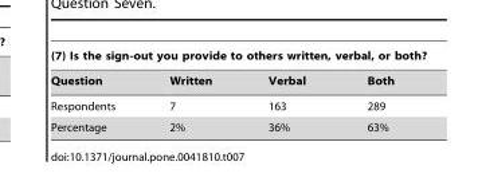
<table><thead><tr><td colspan="4">(7) Is the sign-out you provide to others written, verbal, or both?</td></tr><tr><td>Question</td><td>Written</td><td>Verbal</td><td>Both</td></tr></thead><tbody><tr><td>Respondents</td><td>7</td><td>163</td><td>289</td></tr><tr><td>Percentage</td><td>2%</td><td>36%</td><td>63%</td></tr></tbody></table>